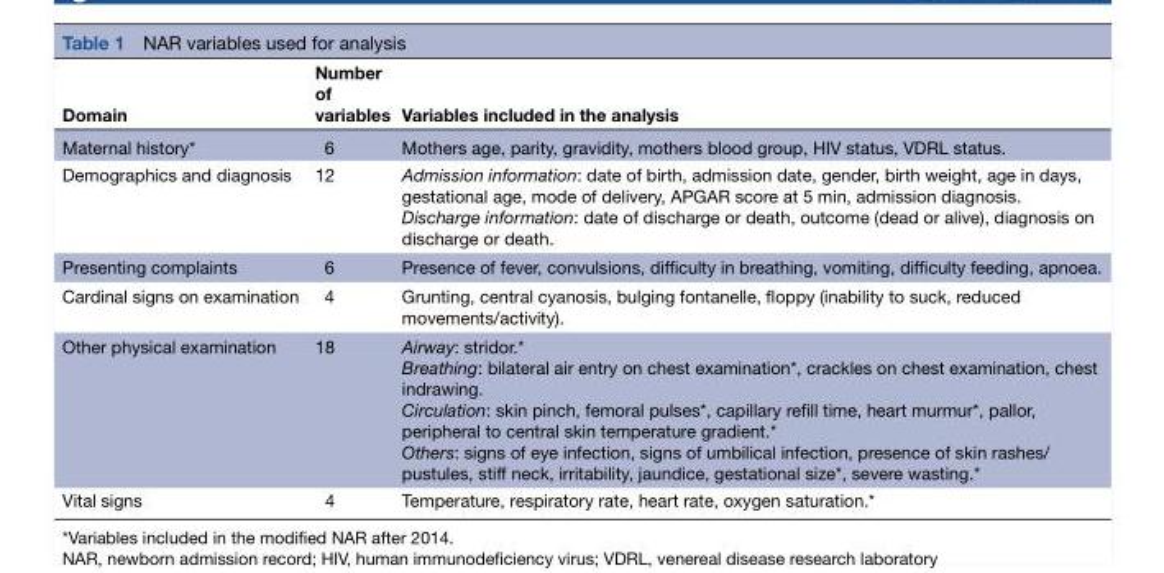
<table><thead><tr><td>Domain</td><td>Number of variables</td><td>Variables included in the analysis</td></tr></thead><tbody><tr><td>Maternal history*</td><td>6</td><td>Mothers age, parity, gravidity, mothers blood group, HIV status, VDRL status.</td></tr><tr><td>Demographics and diagnosis</td><td>12</td><td>Admission information: date of birth, admission date, gender, birth weight, age in days, gestational age, mode of delivery, APGAR score at 5 min, admission diagnosis. Discharge information: date of discharge or death, outcome (dead or alive), diagnosis on discharge or death.</td></tr><tr><td>Presenting complaints</td><td>6</td><td>Presence of fever, convulsions, difficulty in breathing, vomiting, difficulty feeding, apnoea.</td></tr><tr><td>Cardinal signs on examination</td><td>4</td><td>Grunting, central cyanosis, bulging fontanelle, floppy (inability to suck, reduced movements/activity).</td></tr><tr><td>Other physical examination</td><td>18</td><td>Airway: stridor.* Breathing: bilateral air entry on chest examination*, crackles on chest examination, chest indrawing. Circulation: skin pinch, femoral pulses*, capillary refill time, heart murmur*, pallor, peripheral to central skin temperature gradient.* Others: signs of eye infection, signs of umbilical infection, presence of skin rashes/ pustules, stiff neck, irritability, jaundice, gestational size*, severe wasting.*</td></tr><tr><td>Vital signs</td><td>4</td><td>Temperature, respiratory rate, heart rate, oxygen saturation.*</td></tr></tbody></table>